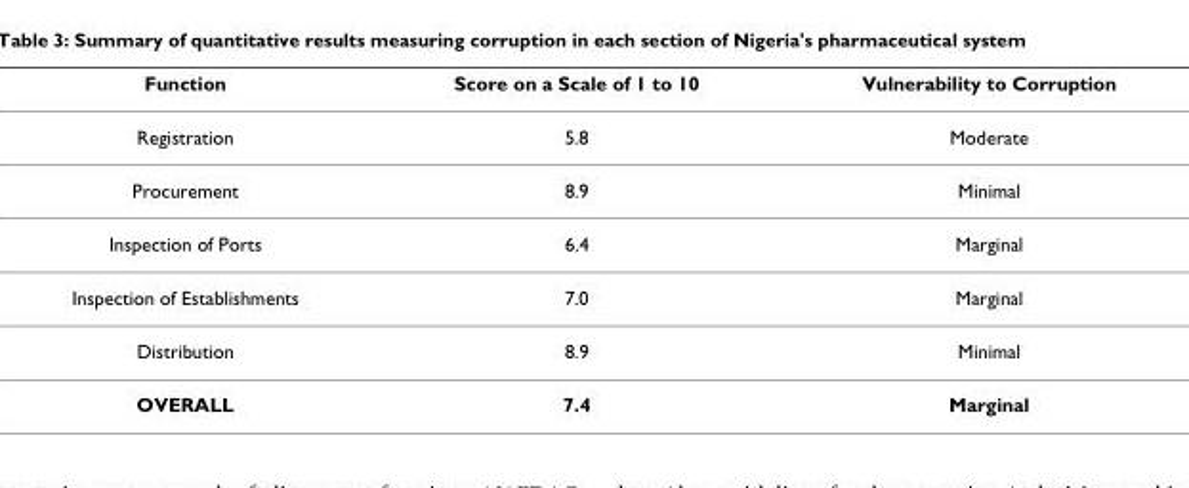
<table><thead><tr><td>Function</td><td>Score on a Scale of 1 to 10</td><td>Vulnerability to Corruption</td></tr></thead><tbody><tr><td>Registration</td><td>5.8</td><td>Moderate</td></tr><tr><td>Procurement</td><td>8.9</td><td>Minimal</td></tr><tr><td>Inspection of Ports</td><td>6.4</td><td>Marginal</td></tr><tr><td>Inspection of Establishments</td><td>7.0</td><td>Marginal</td></tr><tr><td>Distribution</td><td>8.9</td><td>Minimal</td></tr><tr><td>OVERALL</td><td>7.4</td><td>Marginal</td></tr></tbody></table>